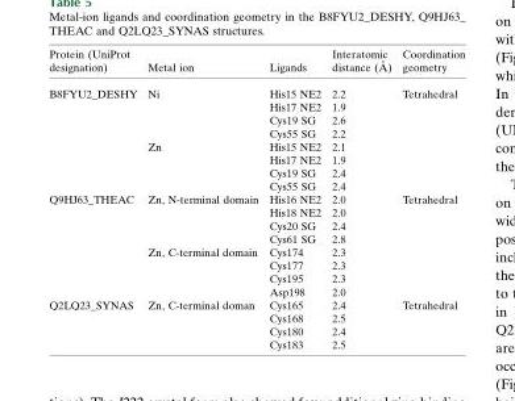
<table><thead><tr><td>Protein (UniProt designation)</td><td>Metal ion</td><td>Ligands</td><td>Interatomic distance (A˚ )</td><td>Coordination geometry</td></tr></thead><tbody><tr><td rowspan="8">B8FYU2_DESHY</td><td>Ni</td><td>His15 NE2</td><td>2.2</td><td>Tetrahedral</td></tr><tr><td></td><td>His17 NE2</td><td>1.9</td><td></td></tr><tr><td></td><td>Cys19 SG</td><td>2.6</td><td></td></tr><tr><td></td><td>Cys55 SG</td><td>2.2</td><td></td></tr><tr><td>Zn</td><td>His15 NE2</td><td>2.1</td><td></td></tr><tr><td></td><td>His17 NE2</td><td>1.9</td><td></td></tr><tr><td></td><td>Cys19 SG</td><td>2.4</td><td></td></tr><tr><td></td><td>Cys55 SG</td><td>2.4</td><td></td></tr><tr><td rowspan="8">Q9HJ63_THEAC</td><td>Zn, N-terminal domain</td><td>His16 NE2</td><td>2.0</td><td>Tetrahedral</td></tr><tr><td></td><td>His18 NE2</td><td>2.0</td><td></td></tr><tr><td></td><td>Cys20 SG</td><td>2.4</td><td></td></tr><tr><td></td><td>Cys61 SG</td><td>2.8</td><td></td></tr><tr><td>Zn, C-terminal domain</td><td>Cys174</td><td>2.3</td><td></td></tr><tr><td></td><td>Cys177</td><td>2.3</td><td></td></tr><tr><td></td><td>Cys195</td><td>2.3</td><td></td></tr><tr><td></td><td>Asp198</td><td>2.0</td><td></td></tr><tr><td rowspan="4">Q2LQ23_SYNAS</td><td>Zn, C-terminal doman</td><td>Cys165</td><td>2.4</td><td>Tetrahedral</td></tr><tr><td></td><td>Cys168</td><td>2.5</td><td></td></tr><tr><td></td><td>Cys180</td><td>2.4</td><td></td></tr><tr><td></td><td>Cys183</td><td>2.5</td><td></td></tr></tbody></table>